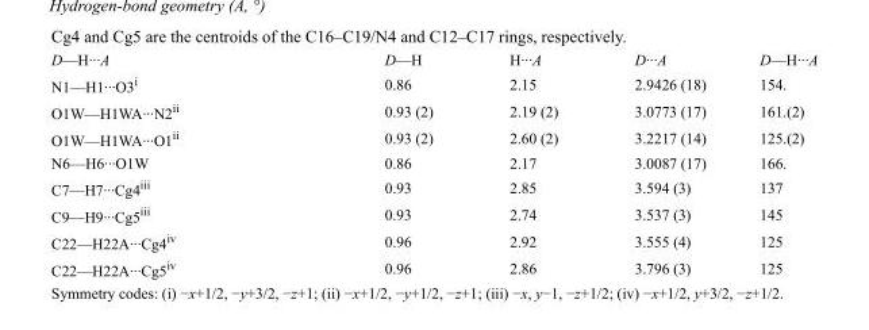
<table><tbody><tr><td>D—H···A</td><td>D—H</td><td>H···A</td><td>D···A</td><td>D—H···A</td></tr><tr><td>N1—H1···O3<sup>i</sup></td><td>0.86</td><td>2.15</td><td>2.9426 (18)</td><td>154.</td></tr><tr><td>O1W—H1WA···N2<sup>ii</sup></td><td>0.93 (2)</td><td>2.19 (2)</td><td>3.0773 (17)</td><td>161.(2)</td></tr><tr><td>O1W—H1WA···O1<sup>ii</sup></td><td>0.93 (2)</td><td>2.60 (2)</td><td>3.2217 (14)</td><td>125.(2)</td></tr><tr><td>N6—H6···O1W</td><td>0.86</td><td>2.17</td><td>3.0087 (17)</td><td>166.</td></tr><tr><td>C7—H7···Cg4<sup>iii</sup></td><td>0.93</td><td>2.85</td><td>3.594 (3)</td><td>137</td></tr><tr><td>C9—H9···Cg5<sup>iii</sup></td><td>0.93</td><td>2.74</td><td>3.537 (3)</td><td>145</td></tr><tr><td>C22—H22A···Cg4<sup>iv</sup></td><td>0.96</td><td>2.92</td><td>3.555 (4)</td><td>125</td></tr><tr><td>C22—H22A···Cg5<sup>iv</sup></td><td>0.96</td><td>2.86</td><td>3.796 (3)</td><td>125</td></tr></tbody></table>